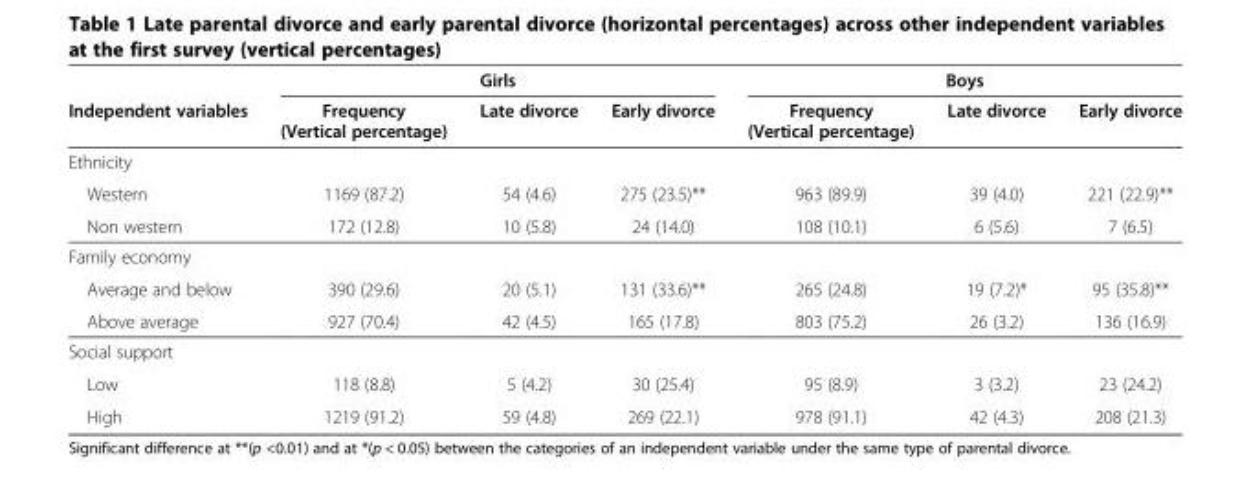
<table><thead><tr><td rowspan="2">Independent variables</td><td colspan="3">Girls</td><td colspan="3">Boys</td></tr><tr><td>Frequency (Vertical percentage)</td><td>Late divorce</td><td>Early divorce</td><td>Frequency (Vertical percentage)</td><td>Late divorce</td><td>Early divorce</td></tr></thead><tbody><tr><td colspan="7">Ethnicity</td></tr><tr><td>Western</td><td>1169 (87.2)</td><td>54 (4.6)</td><td>275 (23.5)**</td><td>963 (89.9)</td><td>39 (4.0)</td><td>221 (22.9)**</td></tr><tr><td>Non western</td><td>172 (12.8)</td><td>10 (5.8)</td><td>24 (14.0)</td><td>108 (10.1)</td><td>6 (5.6)</td><td>7 (6.5)</td></tr><tr><td colspan="7">Family economy</td></tr><tr><td>Average and below</td><td>390 (29.6)</td><td>20 (5.1)</td><td>131 (33.6)**</td><td>265 (24.8)</td><td>19 (7.2)*</td><td>95 (35.8)**</td></tr><tr><td>Above average</td><td>927 (70.4)</td><td>42 (4.5)</td><td>165 (17.8)</td><td>803 (75.2)</td><td>26 (3.2)</td><td>136 (16.9)</td></tr><tr><td colspan="7">Social support</td></tr><tr><td>Low</td><td>118 (8.8)</td><td>5 (4.2)</td><td>30 (25.4)</td><td>95 (8.9)</td><td>3 (3.2)</td><td>23 (24.2)</td></tr><tr><td>High</td><td>1219 (91.2)</td><td>59 (4.8)</td><td>269 (22.1)</td><td>978 (91.1)</td><td>42 (4.3)</td><td>208 (21.3)</td></tr></tbody></table>